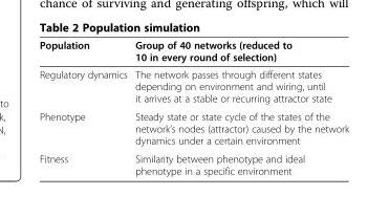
<table><thead><tr><td>Population</td><td>Group of 40 networks (reduced to 10 in every round of selection)</td></tr></thead><tbody><tr><td>Regulatory dynamics</td><td>The network passes through different states depending on environment and wiring, until it arrives at a stable or recurring attractor state</td></tr><tr><td>Phenotype</td><td>Steady state or state cycle of the states of the network’s nodes (attractor) caused by the network dynamics under a certain environment</td></tr><tr><td>Fitness</td><td>Similarity between phenotype and ideal phenotype in a specific environment</td></tr></tbody></table>